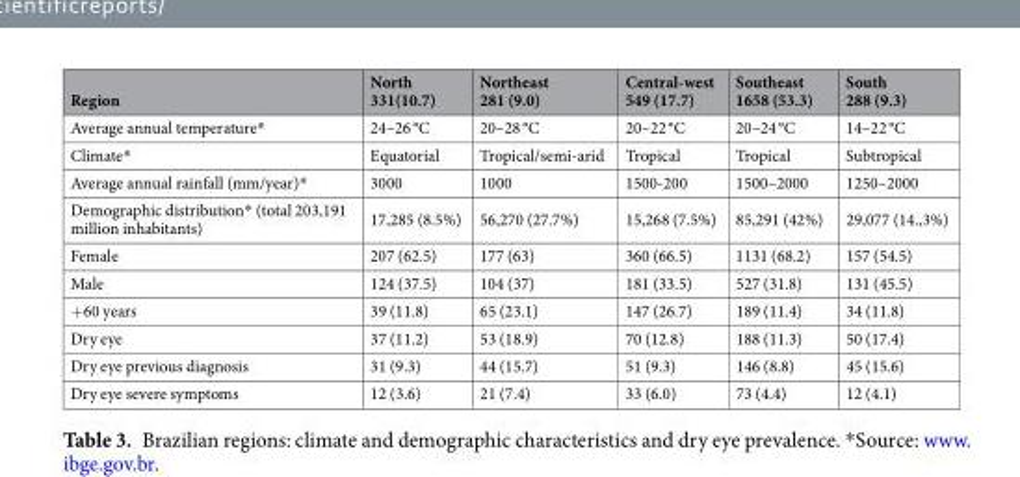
<table><thead><tr><td>Region</td><td>North 331(10.7)</td><td>Northeast 281 (9.0)</td><td>Central-west 549 (17.7)</td><td>Southeast 1658 (53.3)</td><td>South 288 (9.3)</td></tr></thead><tbody><tr><td>Average annual temperature*</td><td>24–26 °C</td><td>20–28 °C</td><td>20–22 °C</td><td>20–24 °C</td><td>14–22 °C</td></tr><tr><td>Climate*</td><td>Equatorial</td><td>Tropical/semi-arid</td><td>Tropical</td><td>Tropical</td><td>Subtropical</td></tr><tr><td>Average annual rainfall (mm/year)*</td><td>3000</td><td>1000</td><td>1500-200</td><td>1500–2000</td><td>1250–2000</td></tr><tr><td>Demographic distribution* (total 203,191 million inhabitants)</td><td>17,285 (8.5%)</td><td>56,270 (27.7%)</td><td>15,268 (7.5%)</td><td>85,291 (42%)</td><td>29,077 (14.,3%)</td></tr><tr><td>Female</td><td>207 (62.5)</td><td>177 (63)</td><td>360 (66.5)</td><td>1131 (68.2)</td><td>157 (54.5)</td></tr><tr><td>Male</td><td>124 (37.5)</td><td>104 (37)</td><td>181 (33.5)</td><td>527 (31.8)</td><td>131 (45.5)</td></tr><tr><td>+60 years</td><td>39 (11.8)</td><td>65 (23.1)</td><td>147 (26.7)</td><td>189 (11.4)</td><td>34 (11.8)</td></tr><tr><td>Dry eye</td><td>37 (11.2)</td><td>53 (18.9)</td><td>70 (12.8)</td><td>188 (11.3)</td><td>50 (17.4)</td></tr><tr><td>Dry eye previous diagnosis</td><td>31 (9.3)</td><td>44 (15.7)</td><td>51 (9.3)</td><td>146 (8.8)</td><td>45 (15.6)</td></tr><tr><td>Dry eye severe symptoms</td><td>12 (3.6)</td><td>21 (7.4)</td><td>33 (6.0)</td><td>73 (4.4)</td><td>12 (4.1)</td></tr></tbody></table>